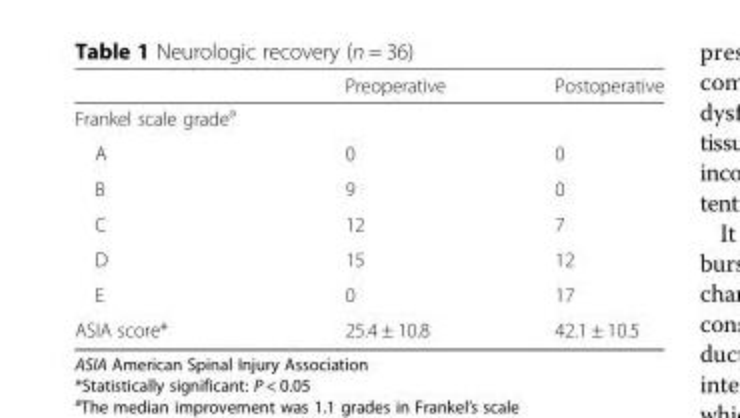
<table><thead><tr><td></td><td>Preoperative</td><td>Postoperative</td></tr></thead><tbody><tr><td colspan="3">Frankel scale grade<sup>a</sup></td></tr><tr><td>A</td><td>0</td><td>0</td></tr><tr><td>B</td><td>9</td><td>0</td></tr><tr><td>C</td><td>12</td><td>7</td></tr><tr><td>D</td><td>15</td><td>12</td></tr><tr><td>E</td><td>0</td><td>17</td></tr><tr><td>ASIA score*</td><td>25.4 ± 10.8</td><td>42.1 ± 10.5</td></tr></tbody></table>